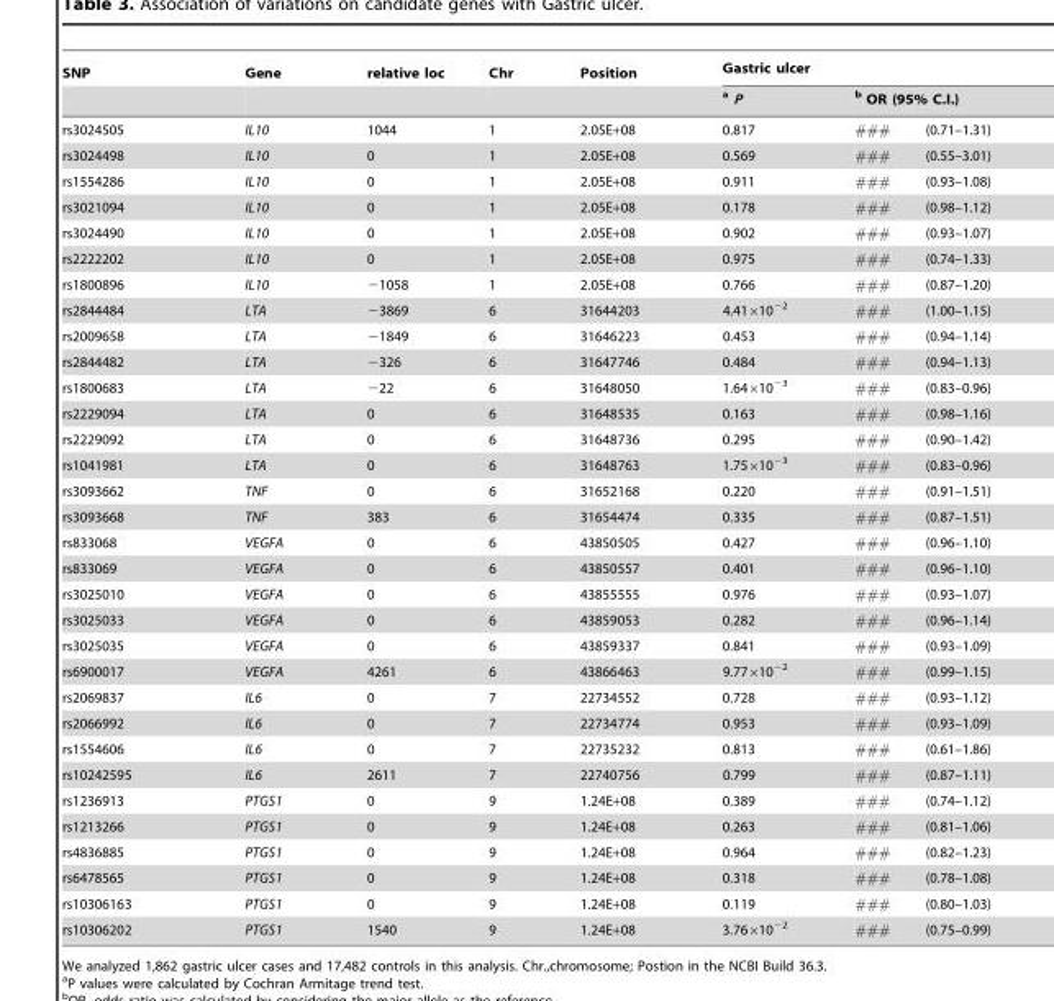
<table><thead><tr><td rowspan="3">SNP rs3024505</td><td rowspan="3">Gene IL10</td><td rowspan="3">relative loc 1044</td><td rowspan="3">Chr 1</td><td rowspan="3">Position 2.05E+08</td><td colspan="3">Gastric ulcer</td></tr><tr><td rowspan="2">a P 0.817</td><td colspan="2">b OR (95% C.I.)</td></tr><tr><td>###</td><td>(0.71–1.31)</td></tr></thead><tbody><tr><td>rs3024498</td><td>IL10</td><td>0</td><td>1</td><td>2.05E+08</td><td>0.569</td><td>###</td><td>(0.55–3.01)</td></tr><tr><td>rs1554286</td><td>IL10</td><td>0</td><td>1</td><td>2.05E+08</td><td>0.911</td><td>###</td><td>(0.93–1.08)</td></tr><tr><td>rs3021094</td><td>IL10</td><td>0</td><td>1</td><td>2.05E+08</td><td>0.178</td><td>###</td><td>(0.98–1.12)</td></tr><tr><td>rs3024490</td><td>IL10</td><td>0</td><td>1</td><td>2.05E+08</td><td>0.902</td><td>###</td><td>(0.93–1.07)</td></tr><tr><td>rs2222202</td><td>IL10</td><td>0</td><td>1</td><td>2.05E+08</td><td>0.975</td><td>###</td><td>(0.74–1.33)</td></tr><tr><td>rs1800896</td><td>IL10</td><td>−1058</td><td>1</td><td>2.05E+08</td><td>0.766</td><td>###</td><td>(0.87–1.20)</td></tr><tr><td>rs2844484</td><td>LTA</td><td>−3869</td><td>6</td><td>31644203</td><td>4.41×10<sup>−2</sup></td><td>###</td><td>(1.00–1.15)</td></tr><tr><td>rs2009658</td><td>LTA</td><td>−1849</td><td>6</td><td>31646223</td><td>0.453</td><td>###</td><td>(0.94–1.14)</td></tr><tr><td>rs2844482</td><td>LTA</td><td>−326</td><td>6</td><td>31647746</td><td>0.484</td><td>###</td><td>(0.94–1.13)</td></tr><tr><td>rs1800683</td><td>LTA</td><td>−22</td><td>6</td><td>31648050</td><td>1.64×10<sup>−3</sup></td><td>###</td><td>(0.83–0.96)</td></tr><tr><td>rs2229094</td><td>LTA</td><td>0</td><td>6</td><td>31648535</td><td>0.163</td><td>###</td><td>(0.98–1.16)</td></tr><tr><td>rs2229092</td><td>LTA</td><td>0</td><td>6</td><td>31648736</td><td>0.295</td><td>###</td><td>(0.90–1.42)</td></tr><tr><td>rs1041981</td><td>LTA</td><td>0</td><td>6</td><td>31648763</td><td>1.75×10<sup>−3</sup></td><td>###</td><td>(0.83–0.96)</td></tr><tr><td>rs3093662</td><td>TNF</td><td>0</td><td>6</td><td>31652168</td><td>0.220</td><td>###</td><td>(0.91–1.51)</td></tr><tr><td>rs3093668</td><td>TNF</td><td>383</td><td>6</td><td>31654474</td><td>0.335</td><td>###</td><td>(0.87–1.51)</td></tr><tr><td>rs833068</td><td>VEGFA</td><td>0</td><td>6</td><td>43850505</td><td>0.427</td><td>###</td><td>(0.96–1.10)</td></tr><tr><td>rs833069</td><td>VEGFA</td><td>0</td><td>6</td><td>43850557</td><td>0.401</td><td>###</td><td>(0.96–1.10)</td></tr><tr><td>rs3025010</td><td>VEGFA</td><td>0</td><td>6</td><td>43855555</td><td>0.976</td><td>###</td><td>(0.93–1.07)</td></tr><tr><td>rs3025033</td><td>VEGFA</td><td>0</td><td>6</td><td>43859053</td><td>0.282</td><td>###</td><td>(0.96–1.14)</td></tr><tr><td>rs3025035</td><td>VEGFA</td><td>0</td><td>6</td><td>43859337</td><td>0.841</td><td>###</td><td>(0.93–1.09)</td></tr><tr><td>rs6900017</td><td>VEGFA</td><td>4261</td><td>6</td><td>43866463</td><td>9.77×10<sup>−2</sup></td><td>###</td><td>(0.99–1.15)</td></tr><tr><td>rs2069837</td><td>IL6</td><td>0</td><td>7</td><td>22734552</td><td>0.728</td><td>###</td><td>(0.93–1.12)</td></tr><tr><td>rs2066992</td><td>IL6</td><td>0</td><td>7</td><td>22734774</td><td>0.953</td><td>###</td><td>(0.93–1.09)</td></tr><tr><td>rs1554606</td><td>IL6</td><td>0</td><td>7</td><td>22735232</td><td>0.813</td><td>###</td><td>(0.61–1.86)</td></tr><tr><td>rs10242595</td><td>IL6</td><td>2611</td><td>7</td><td>22740756</td><td>0.799</td><td>###</td><td>(0.87–1.11)</td></tr><tr><td>rs1236913</td><td>PTGS1</td><td>0</td><td>9</td><td>1.24E+08</td><td>0.389</td><td>###</td><td>(0.74–1.12)</td></tr><tr><td>rs1213266</td><td>PTGS1</td><td>0</td><td>9</td><td>1.24E+08</td><td>0.263</td><td>###</td><td>(0.81–1.06)</td></tr><tr><td>rs4836885</td><td>PTGS1</td><td>0</td><td>9</td><td>1.24E+08</td><td>0.964</td><td>###</td><td>(0.82–1.23)</td></tr><tr><td>rs6478565</td><td>PTGS1</td><td>0</td><td>9</td><td>1.24E+08</td><td>0.318</td><td>###</td><td>(0.78–1.08)</td></tr><tr><td>rs10306163</td><td>PTGS1</td><td>0</td><td>9</td><td>1.24E+08</td><td>0.119</td><td>###</td><td>(0.80–1.03)</td></tr><tr><td>rs10306202</td><td>PTGS1</td><td>1540</td><td>9</td><td>1.24E+08</td><td>3.76×10<sup>−2</sup></td><td>###</td><td>(0.75–0.99)</td></tr></tbody></table>